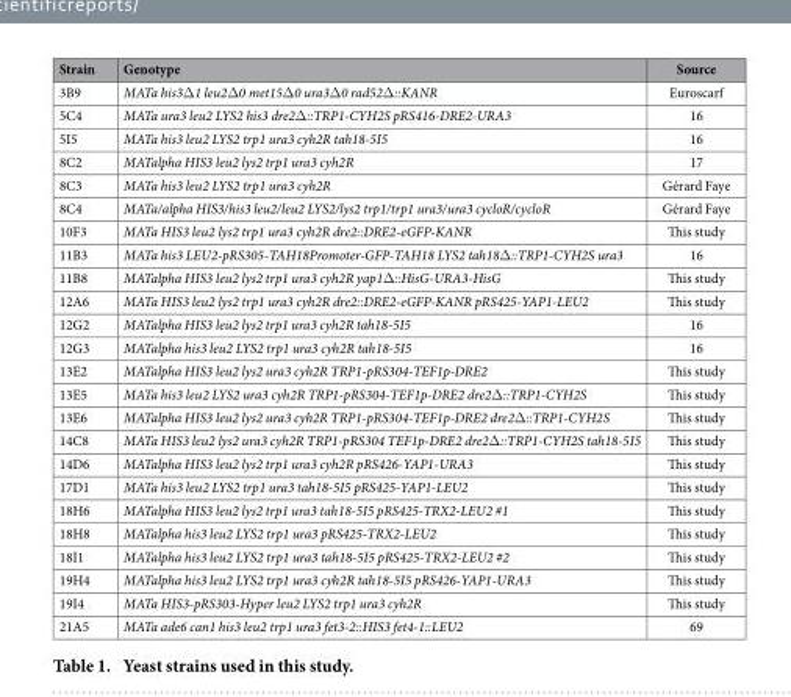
<table><thead><tr><td>Strain</td><td>Genotype</td><td>Source</td></tr></thead><tbody><tr><td>3B9</td><td>MATa his3Δ 1 leu2Δ 0 met15Δ 0 ura3Δ 0 rad52Δ ::KANR</td><td>Euroscarf</td></tr><tr><td>5C4</td><td>MATa ura3 leu2 LYS2 his3 dre2Δ ::TRP1-CYH2S pRS416-DRE2-URA3</td><td>16</td></tr><tr><td>5I5</td><td>MATa his3 leu2 LYS2 trp1 ura3 cyh2R tah18-5I5</td><td>16</td></tr><tr><td>8C2</td><td>MATalpha HIS3 leu2 lys2 trp1 ura3 cyh2R</td><td>17</td></tr><tr><td>8C3</td><td>MATa his3 leu2 LYS2 trp1 ura3 cyh2R</td><td>Gérard Faye</td></tr><tr><td>8C4</td><td>MATa/alpha HIS3/his3 leu2/leu2 LYS2/lys2 trp1/trp1 ura3/ura3 cycloR/cycloR</td><td>Gérard Faye</td></tr><tr><td>10F3</td><td>MATa HIS3 leu2 lys2 trp1 ura3 cyh2R dre2::DRE2-eGFP-KANR</td><td>This study</td></tr><tr><td>11B3</td><td>MATa his3 LEU2-pRS305-TAH18Promoter-GFP-TAH18 LYS2 tah18Δ ::TRP1-CYH2S ura3</td><td>16</td></tr><tr><td>11B8</td><td>MATalpha HIS3 leu2 lys2 trp1 ura3 cyh2R yap1Δ ::HisG-URA3-HisG</td><td>This study</td></tr><tr><td>12A6</td><td>MATa HIS3 leu2 lys2 trp1 ura3 cyh2R dre2::DRE2-eGFP-KANR pRS425-YAP1-LEU2</td><td>This study</td></tr><tr><td>12G2</td><td>MATalpha HIS3 leu2 lys2 trp1 ura3 cyh2R tah18-5I5</td><td>16</td></tr><tr><td>12G3</td><td>MATalpha his3 leu2 LYS2 trp1 ura3 cyh2R tah18-5I5</td><td>16</td></tr><tr><td>13E2</td><td>MATalpha HIS3 leu2 lys2 ura3 cyh2R TRP1-pRS304-TEF1p-DRE2</td><td>This study</td></tr><tr><td>13E5</td><td>MATa his3 leu2 LYS2 ura3 cyh2R TRP1-pRS304-TEF1p-DRE2 dre2Δ ::TRP1-CYH2S</td><td>This study</td></tr><tr><td>13E6</td><td>MATalpha HIS3 leu2 lys2 ura3 cyh2R TRP1-pRS304-TEF1p-DRE2 dre2Δ ::TRP1-CYH2S</td><td>This study</td></tr><tr><td>14C8</td><td>MATa HIS3 leu2 lys2 ura3 cyh2R TRP1-pRS304 TEF1p-DRE2 dre2Δ ::TRP1-CYH2S tah18-5I5</td><td>This study</td></tr><tr><td>14D6</td><td>MATalpha HIS3 leu2 lys2 trp1 ura3 cyh2R pRS426-YAP1-URA3</td><td>This study</td></tr><tr><td>17D1</td><td>MATa his3 leu2 LYS2 trp1 ura3 tah18-5I5 pRS425-YAP1-LEU2</td><td>This study</td></tr><tr><td>18H6</td><td>MATalpha HIS3 leu2 lys2 trp1 ura3 tah18-5I5 pRS425-TRX2-LEU2 #1</td><td>This study</td></tr><tr><td>18H8</td><td>MATalpha his3 leu2 LYS2 trp1 ura3 pRS425-TRX2-LEU2</td><td>This study</td></tr><tr><td>18I1</td><td>MATalpha his3 leu2 LYS2 trp1 ura3 tah18-5I5 pRS425-TRX2-LEU2 #2</td><td>This study</td></tr><tr><td>19H4</td><td>MATalpha his3 leu2 LYS2 trp1 ura3 cyh2R tah18-5I5 pRS426-YAP1-URA3</td><td>This study</td></tr><tr><td>19I4</td><td>MATa HIS3-pRS303-Hyper leu2 LYS2 trp1 ura3 cyh2R</td><td>This study</td></tr><tr><td>21A5</td><td>MATa ade6 can1 his3 leu2 trp1 ura3 fet3-2::HIS3 fet4-1::LEU2</td><td>69</td></tr></tbody></table>